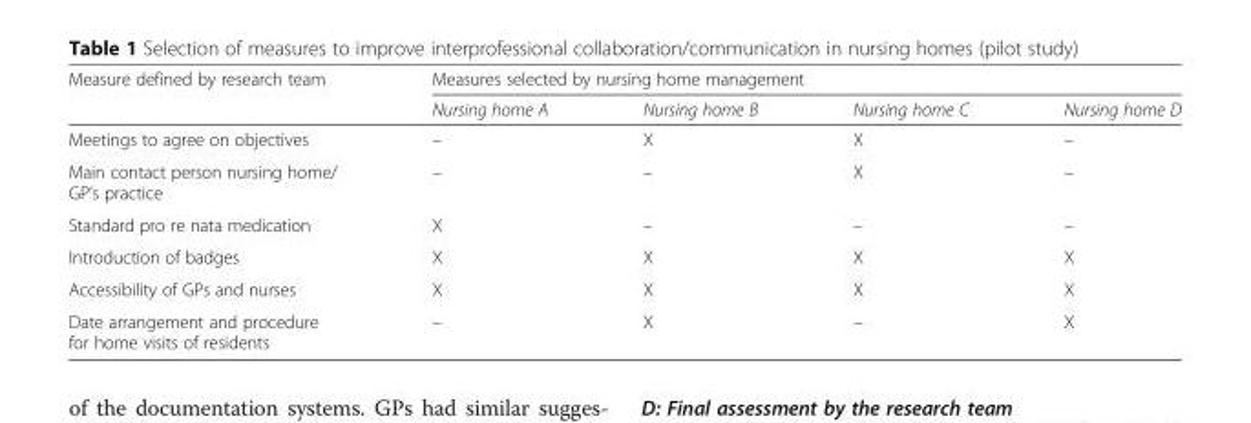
<table><thead><tr><td rowspan="2">Measure defined by research team</td><td colspan="4">Measures selected by nursing home management</td></tr><tr><td>Nursing home A</td><td>Nursing home B</td><td>Nursing home C</td><td>Nursing home D</td></tr></thead><tbody><tr><td>Meetings to agree on objectives</td><td>–</td><td>X</td><td>X</td><td>–</td></tr><tr><td>Main contact person nursing home/ GP’s practice</td><td>–</td><td>–</td><td>X</td><td>–</td></tr><tr><td>Standard pro re nata medication</td><td>X</td><td>–</td><td>–</td><td>–</td></tr><tr><td>Introduction of badges</td><td>X</td><td>X</td><td>X</td><td>X</td></tr><tr><td>Accessibility of GPs and nurses</td><td>X</td><td>X</td><td>X</td><td>X</td></tr><tr><td>Date arrangement and procedure for home visits of residents</td><td>–</td><td>X</td><td>–</td><td>X</td></tr></tbody></table>